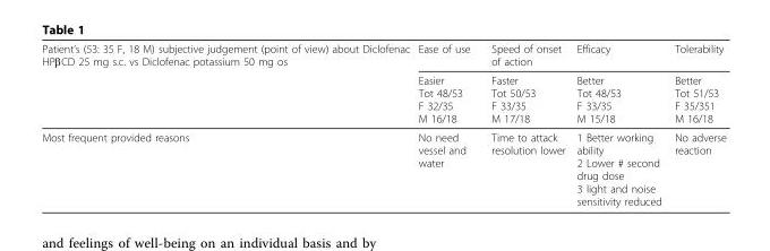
<table><thead><tr><td>Patient’s (53: 35 F, 18 M) subjective judgement (point of view) about Diclofenac HPβCD 25 mg s.c. vs Diclofenac potassium 50 mg os</td><td>Ease of use</td><td>Speed of onset of action</td><td>Efficacy</td><td>Tolerability</td></tr></thead><tbody><tr><td></td><td>Easier Tot 48/53 F 32/35 M 16/18</td><td>Faster Tot 50/53 F 33/35 M 17/18</td><td>Better Tot 48/53 F 33/35 M 15/18</td><td>Better Tot 51/53 F 35/351 M 16/18</td></tr><tr><td>Most frequent provided reasons</td><td>No need vessel and water</td><td>Time to attack resolution lower</td><td>1 Better working ability 2 Lower # second drug dose 3 light and noise sensitivity reduced</td><td>No adverse reaction</td></tr></tbody></table>